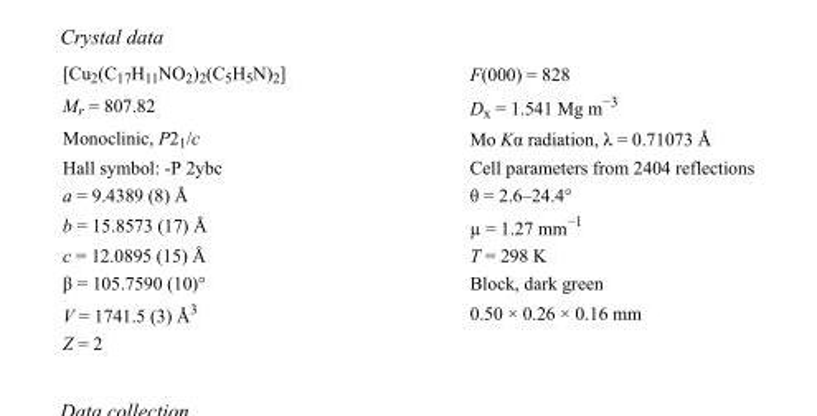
<table><tbody><tr><td>[Cu<sub>2</sub>(C<sub>17</sub>H<sub>11</sub>NO<sub>2</sub>)<sub>2</sub>(C<sub>5</sub>H<sub>5</sub>N)<sub>2</sub>]</td><td>F(000) = 828</td></tr><tr><td>M<sub>r</sub> = 807.82</td><td>D<sub>x</sub> = 1.541 Mg m<sup>−3</sup></td></tr><tr><td>Monoclinic, P2<sub>1</sub>/c</td><td>Mo Kα radiation, λ = 0.71073 Å</td></tr><tr><td>Hall symbol: -P 2ybc</td><td>Cell parameters from 2404 reflections</td></tr><tr><td>a = 9.4389 (8) Å</td><td>θ = 2.6–24.4°</td></tr><tr><td>b = 15.8573 (17) Å</td><td>µ = 1.27 mm<sup>−1</sup></td></tr><tr><td>c = 12.0895 (15) Å</td><td>T = 298 K</td></tr><tr><td>β = 105.7590 (10)°</td><td>Block, dark green</td></tr><tr><td>V = 1741.5 (3) Å<sup>3</sup></td><td>0.50 × 0.26 × 0.16 mm</td></tr><tr><td>Z = 2</td><td></td></tr></tbody></table>